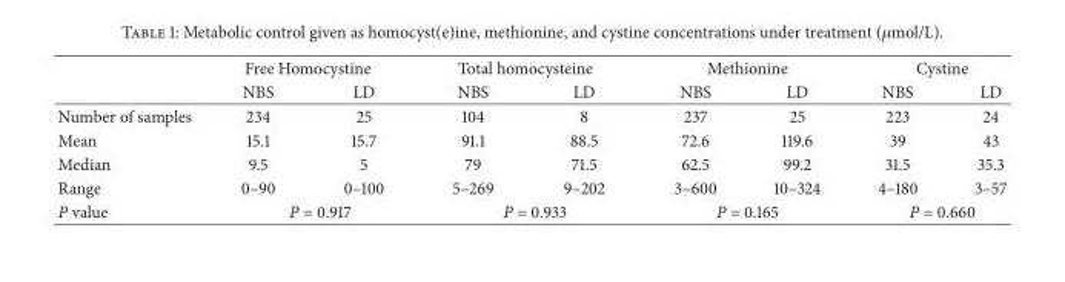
<table><thead><tr><td rowspan="2"></td><td colspan="2">Free Homocystine</td><td colspan="2">Total homocysteine</td><td colspan="2">Methionine</td><td colspan="2">Cystine</td></tr><tr><td>NBS</td><td>LD</td><td>NBS</td><td>LD</td><td>NBS</td><td>LD</td><td>NBS</td><td>LD</td></tr></thead><tbody><tr><td>Number of samples</td><td>234</td><td>25</td><td>104</td><td>8</td><td>237</td><td>25</td><td>223</td><td>24</td></tr><tr><td>Mean</td><td>15.1</td><td>15.7</td><td>91.1</td><td>88.5</td><td>72.6</td><td>119.6</td><td>39</td><td>43</td></tr><tr><td>Median</td><td>9.5</td><td>5</td><td>79</td><td>71.5</td><td>62.5</td><td>99.2</td><td>31.5</td><td>35.3</td></tr><tr><td>Range</td><td>0–90</td><td>0–100</td><td>5–269</td><td>9–202</td><td>3–600</td><td>10–324</td><td>4–180</td><td>3–57</td></tr><tr><td>P value</td><td colspan="2">P = 0.917</td><td colspan="2">P = 0.933</td><td colspan="2">P = 0.165</td><td colspan="2">P = 0.660</td></tr></tbody></table>